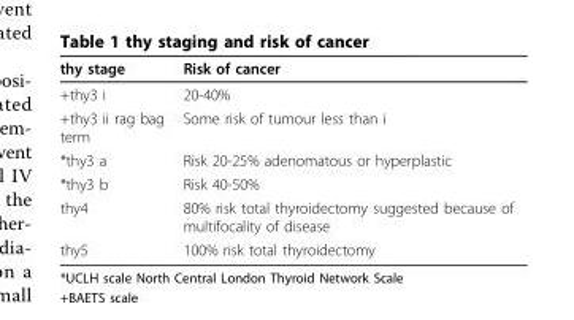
<table><thead><tr><td>thy stage</td><td>Risk of cancer</td></tr></thead><tbody><tr><td>+thy3 i</td><td>20-40%</td></tr><tr><td>+thy3 ii rag bag term</td><td>Some risk of tumour less than i</td></tr><tr><td>*thy3 a</td><td>Risk 20-25% adenomatous or hyperplastic</td></tr><tr><td>*thy3 b</td><td>Risk 40-50%</td></tr><tr><td>thy4</td><td>80% risk total thyroidectomy suggested because of multifocality of disease</td></tr><tr><td>thy5</td><td>100% risk total thyroidectomy</td></tr></tbody></table>